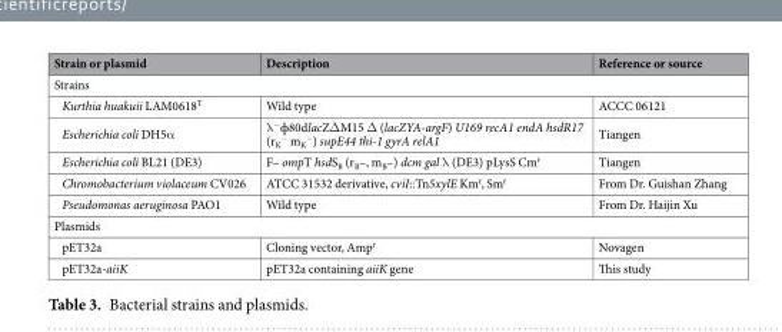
<table><thead><tr><td>Strain or plasmid</td><td>Description</td><td>Reference or source</td></tr></thead><tbody><tr><td colspan="3">Strains</td></tr><tr><td>Kurthia huakuii LAM0618<sup>T</sup></td><td>Wild type</td><td>ACCC 06121</td></tr><tr><td>Escherichia coli DH5α</td><td>λ<sup>−</sup>ф80dlacZΔM15 Δ (lacZYA-argF) U169 recA1 endA hsdR17 (r<sub>K</sub> <sup>−</sup> m<sub>K</sub> <sup>−</sup>) supE44 thi-1 gyrA relA1</td><td>Tiangen</td></tr><tr><td>Escherichia coli BL21 (DE3)</td><td>F– ompT hsdS<sub>B</sub> (r<sub>B</sub>–, m<sub>B</sub>–) dcm gal λ (DE3) pLysS Cm<sup>r</sup></td><td>Tiangen</td></tr><tr><td>Chromobacterium violaceum CV026</td><td>ATCC 31532 derivative, cviI::Tn5xylE Km<sup>r</sup>, Sm<sup>r</sup></td><td>From Dr. Guishan Zhang</td></tr><tr><td>Pseudomonas aeruginosa PAO1</td><td>Wild type</td><td>From Dr. Haijin Xu</td></tr><tr><td colspan="3">Plasmids</td></tr><tr><td>pET32a</td><td>Cloning vector, Amp<sup>r</sup></td><td>Novagen</td></tr><tr><td>pET32a-aiiK</td><td>pET32a containing aiiK gene</td><td>This study</td></tr></tbody></table>